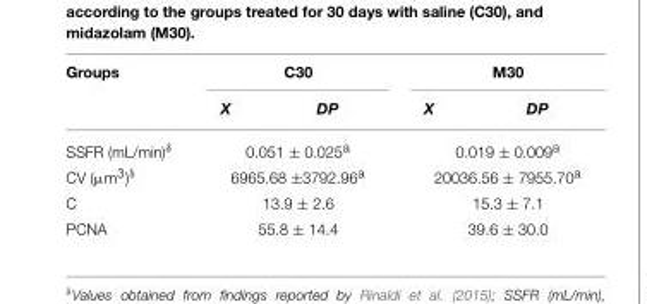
<table><thead><tr><td rowspan="2">Groups</td><td colspan="2">C30</td><td colspan="2">M30</td></tr><tr><td>X</td><td>DP</td><td>X</td><td>DP</td></tr></thead><tbody><tr><td>SSFR (mL/min)<sup>δ</sup></td><td colspan="2">0.051 ± 0.025<sup>a</sup></td><td colspan="2">0.019 ± 0.009<sup>a</sup></td></tr><tr><td>CV (µm3)<sup>δ</sup></td><td colspan="2">6965.68 ±3792.96<sup>a</sup></td><td colspan="2">20036.56 ± 7955.70<sup>a</sup></td></tr><tr><td>C</td><td colspan="2">13.9 ± 2.6</td><td colspan="2">15.3 ± 7.1</td></tr><tr><td>PCNA</td><td colspan="2">55.8 ± 14.4</td><td colspan="2">39.6 ± 30.0</td></tr></tbody></table>